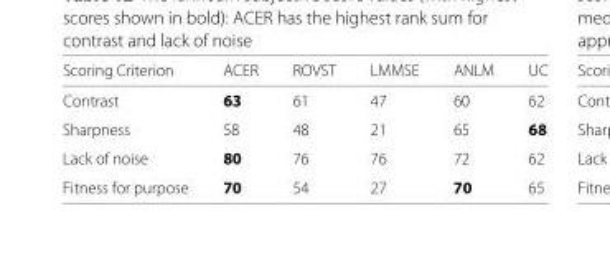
<table><thead><tr><td>Scoring Criterion</td><td>ACER</td><td>ROVST</td><td>LMMSE</td><td>ANLM</td><td>UC</td></tr></thead><tbody><tr><td>Contrast</td><td>63</td><td>61</td><td>47</td><td>60</td><td>62</td></tr><tr><td>Sharpness</td><td>58</td><td>48</td><td>21</td><td>65</td><td>68</td></tr><tr><td>Lack of noise</td><td>80</td><td>76</td><td>76</td><td>72</td><td>62</td></tr><tr><td>Fitness for purpose</td><td>70</td><td>54</td><td>27</td><td>70</td><td>65</td></tr></tbody></table>